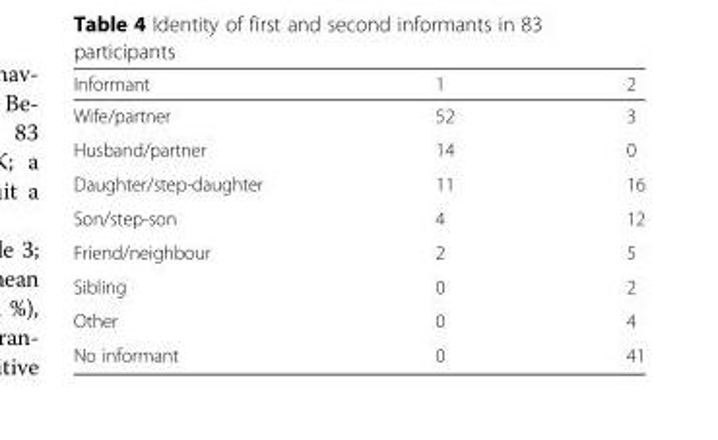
<table><thead><tr><td>Informant</td><td>1</td><td>2</td></tr></thead><tbody><tr><td>Wife/partner</td><td>52</td><td>3</td></tr><tr><td>Husband/partner</td><td>14</td><td>0</td></tr><tr><td>Daughter/step-daughter</td><td>11</td><td>16</td></tr><tr><td>Son/step-son</td><td>4</td><td>12</td></tr><tr><td>Friend/neighbour</td><td>2</td><td>5</td></tr><tr><td>Sibling</td><td>0</td><td>2</td></tr><tr><td>Other</td><td>0</td><td>4</td></tr><tr><td>No informant</td><td>0</td><td>41</td></tr></tbody></table>